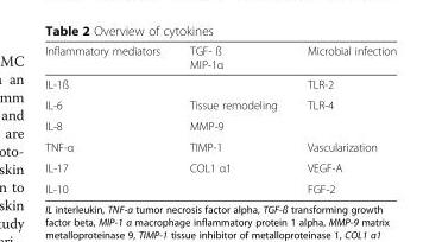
<table><thead><tr><td>Inflammatory mediators</td><td>TGF- ß MIP-1α</td><td>Microbial infection</td></tr></thead><tbody><tr><td>IL-1ß</td><td></td><td>TLR-2</td></tr><tr><td>IL-6</td><td>Tissue remodeling</td><td>TLR-4</td></tr><tr><td>IL-8</td><td>MMP-9</td><td></td></tr><tr><td>TNF-α</td><td>TIMP-1</td><td>Vascularization</td></tr><tr><td>IL-17</td><td>COL1 α1</td><td>VEGF-A</td></tr><tr><td>IL-10</td><td></td><td>FGF-2</td></tr></tbody></table>